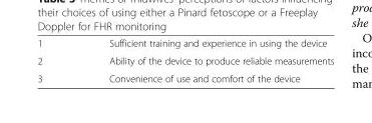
<table><tbody><tr><td>1</td><td>Sufficient training and experience in using the device</td></tr><tr><td>2</td><td>Ability of the device to produce reliable measurements</td></tr><tr><td>3</td><td>Convenience of use and comfort of the device</td></tr></tbody></table>